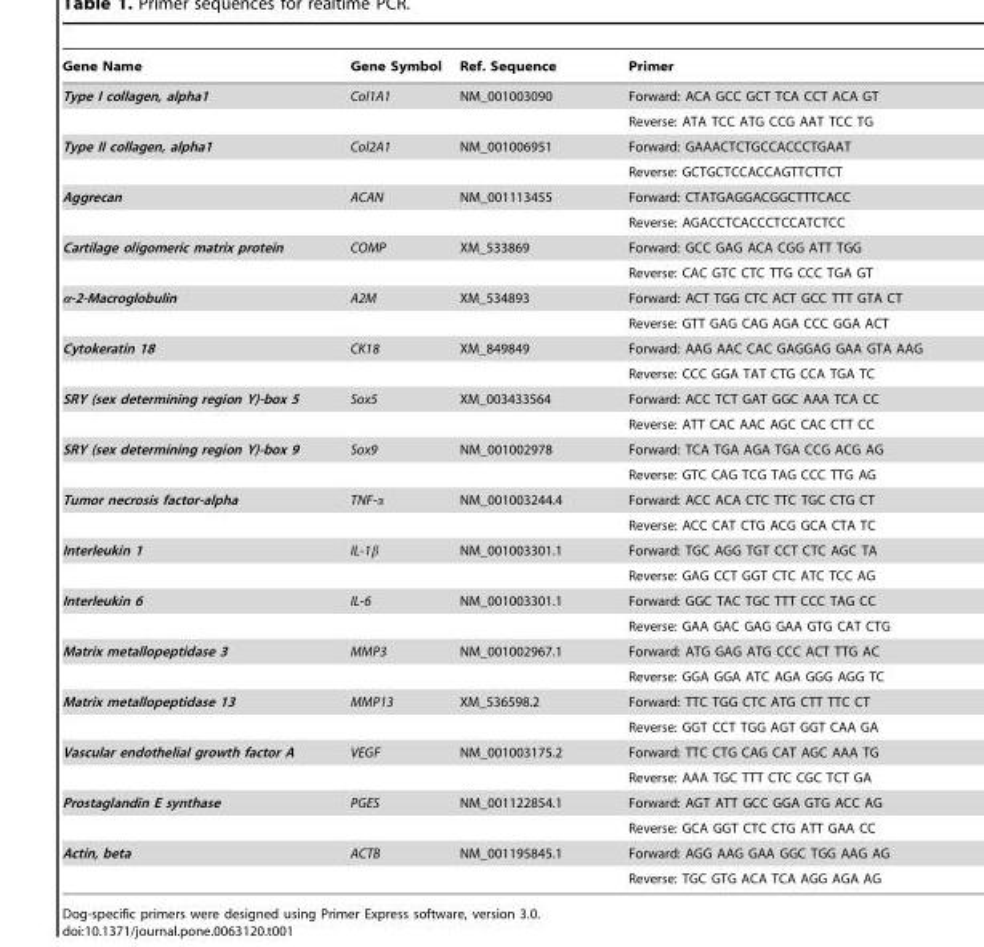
<table><thead><tr><td>Gene Name</td><td>Gene Symbol</td><td>Ref. Sequence</td><td>Primer</td></tr></thead><tbody><tr><td rowspan="2">Type I collagen, alpha1</td><td>Col1A1</td><td>NM_001003090</td><td>Forward: ACA GCC GCT TCA CCT ACA GT</td></tr><tr><td></td><td></td><td>Reverse: ATA TCC ATG CCG AAT TCC TG</td></tr><tr><td rowspan="2">Type II collagen, alpha1</td><td>Col2A1</td><td>NM_001006951</td><td>Forward: GAAACTCTGCCACCCTGAAT</td></tr><tr><td></td><td></td><td>Reverse: GCTGCTCCACCAGTTCTTCT</td></tr><tr><td rowspan="2">Aggrecan</td><td>ACAN</td><td>NM_001113455</td><td>Forward: CTATGAGGACGGCTTTCACC</td></tr><tr><td></td><td></td><td>Reverse: AGACCTCACCCTCCATCTCC</td></tr><tr><td rowspan="2">Cartilage oligomeric matrix protein</td><td>COMP</td><td>XM_533869</td><td>Forward: GCC GAG ACA CGG ATT TGG</td></tr><tr><td></td><td></td><td>Reverse: CAC GTC CTC TTG CCC TGA GT</td></tr><tr><td rowspan="2">α-2-Macroglobulin</td><td>A2M</td><td>XM_534893</td><td>Forward: ACT TGG CTC ACT GCC TTT GTA CT</td></tr><tr><td></td><td></td><td>Reverse: GTT GAG CAG AGA CCC GGA ACT</td></tr><tr><td rowspan="2">Cytokeratin 18</td><td>CK18</td><td>XM_849849</td><td>Forward: AAG AAC CAC GAGGAG GAA GTA AAG</td></tr><tr><td></td><td></td><td>Reverse: CCC GGA TAT CTG CCA TGA TC</td></tr><tr><td rowspan="2">SRY (sex determining region Y)-box 5</td><td>Sox5</td><td>XM_003433564</td><td>Forward: ACC TCT GAT GGC AAA TCA CC</td></tr><tr><td></td><td></td><td>Reverse: ATT CAC AAC AGC CAC CTT CC</td></tr><tr><td rowspan="2">SRY (sex determining region Y)-box 9</td><td>Sox9</td><td>NM_001002978</td><td>Forward: TCA TGA AGA TGA CCG ACG AG</td></tr><tr><td></td><td></td><td>Reverse: GTC CAG TCG TAG CCC TTG AG</td></tr><tr><td rowspan="2">Tumor necrosis factor-alpha</td><td>TNF-α</td><td>NM_001003244.4</td><td>Forward: ACC ACA CTC TTC TGC CTG CT</td></tr><tr><td></td><td></td><td>Reverse: ACC CAT CTG ACG GCA CTA TC</td></tr><tr><td rowspan="2">Interleukin 1</td><td>IL-1β</td><td>NM_001003301.1</td><td>Forward: TGC AGG TGT CCT CTC AGC TA</td></tr><tr><td></td><td></td><td>Reverse: GAG CCT GGT CTC ATC TCC AG</td></tr><tr><td rowspan="2">Interleukin 6</td><td>IL-6</td><td>NM_001003301.1</td><td>Forward: GGC TAC TGC TTT CCC TAG CC</td></tr><tr><td></td><td></td><td>Reverse: GAA GAC GAG GAA GTG CAT CTG</td></tr><tr><td rowspan="2">Matrix metallopeptidase 3</td><td>MMP3</td><td>NM_001002967.1</td><td>Forward: ATG GAG ATG CCC ACT TTG AC</td></tr><tr><td></td><td></td><td>Reverse: GGA GGA ATC AGA GGG AGG TC</td></tr><tr><td rowspan="2">Matrix metallopeptidase 13</td><td>MMP13</td><td>XM_536598.2</td><td>Forward: TTC TGG CTC ATG CTT TTC CT</td></tr><tr><td></td><td></td><td>Reverse: GGT CCT TGG AGT GGT CAA GA</td></tr><tr><td rowspan="2">Vascular endothelial growth factor A</td><td>VEGF</td><td>NM_001003175.2</td><td>Forward: TTC CTG CAG CAT AGC AAA TG</td></tr><tr><td></td><td></td><td>Reverse: AAA TGC TTT CTC CGC TCT GA</td></tr><tr><td rowspan="2">Prostaglandin E synthase</td><td>PGES</td><td>NM_001122854.1</td><td>Forward: AGT ATT GCC GGA GTG ACC AG</td></tr><tr><td></td><td></td><td>Reverse: GCA GGT CTC CTG ATT GAA CC</td></tr><tr><td rowspan="2">Actin, beta</td><td>ACTB</td><td>NM_001195845.1</td><td>Forward: AGG AAG GAA GGC TGG AAG AG</td></tr><tr><td></td><td></td><td>Reverse: TGC GTG ACA TCA AGG AGA AG</td></tr></tbody></table>